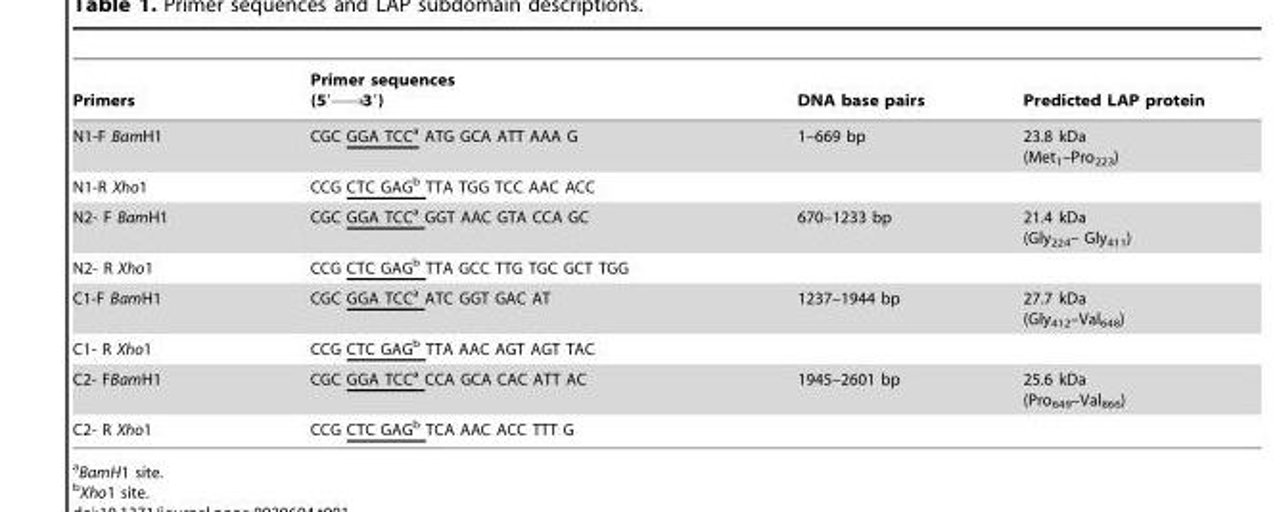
<table><thead><tr><td>Primers</td><td>Primer sequences (5′ 3′)</td><td>DNA base pairs</td><td>Predicted LAP protein</td></tr></thead><tbody><tr><td>N1-F BamH1</td><td>CGC GGA TCCa ATG GCA ATT AAA G</td><td>1–669 bp</td><td>23.8 kDa (Met<sub>1</sub>–Pro<sub>223</sub>)</td></tr><tr><td>N1-R Xho1</td><td>CCG CTC GAGb TTA TGG TCC AAC ACC</td><td></td><td></td></tr><tr><td>N2- F BamH1</td><td>CGC GGA TCCa GGT AAC GTA CCA GC</td><td>670–1233 bp</td><td>21.4 kDa (Gly<sub>224</sub>– Gly<sub>411</sub>)</td></tr><tr><td>N2- R Xho1</td><td>CCG CTC GAGb TTA GCC TTG TGC GCT TGG</td><td></td><td></td></tr><tr><td>C1-F BamH1</td><td>CGC GGA TCCa ATC GGT GAC AT</td><td>1237–1944 bp</td><td>27.7 kDa (Gly<sub>412</sub>–Val<sub>648</sub>)</td></tr><tr><td>C1- R Xho1</td><td>CCG CTC GAGb TTA AAC AGT AGT TAC</td><td></td><td></td></tr><tr><td>C2- FBamH1</td><td>CGC GGA TCCa CCA GCA CAC ATT AC</td><td>1945–2601 bp</td><td>25.6 kDa (Pro<sub>649</sub>–Val<sub>866</sub>)</td></tr><tr><td>C2- R Xho1</td><td>CCG CTC GAGb TCA AAC ACC TTT G</td><td></td><td></td></tr></tbody></table>